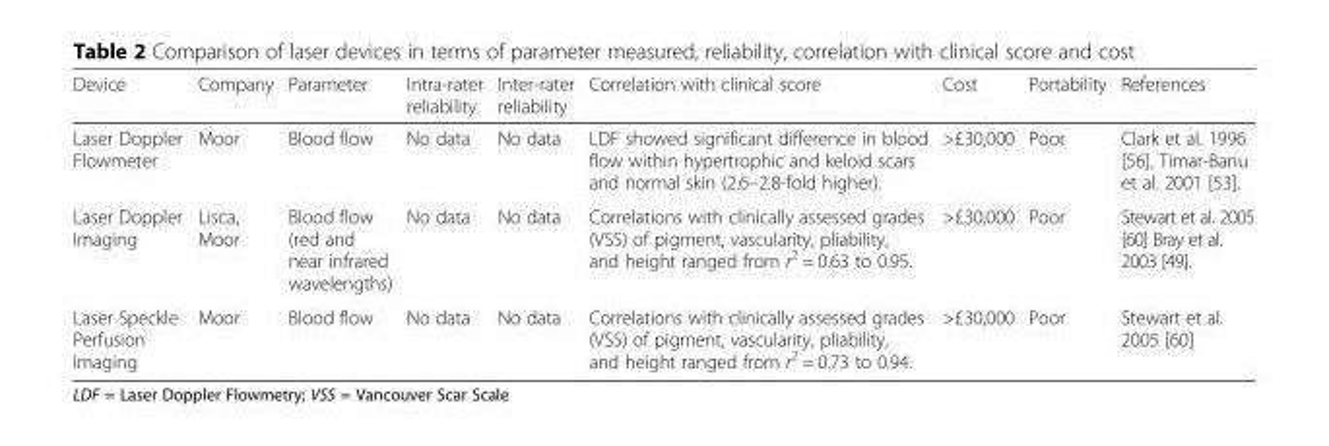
<table><thead><tr><td>Device</td><td>Company</td><td>Parameter</td><td>Intra-rater reliability</td><td>Inter-rater reliability</td><td>Correlation with clinical score</td><td>Cost</td><td>Portability</td><td>References</td></tr></thead><tbody><tr><td>Laser Doppler Flowmeter</td><td>Moor</td><td>Blood flow</td><td>No data</td><td>No data</td><td>LDF showed significant difference in blood flow within hypertrophic and keloid scars and normal skin (2.6–2.8-fold higher).</td><td>&gt;£30,000</td><td>Poor</td><td>Clark et al. 1996 [56], Timar-Banu et al. 2001 [53].</td></tr><tr><td>Laser Doppler Imaging</td><td>Lisca, Moor</td><td>Blood flow (red and near infrared wavelengths)</td><td>No data</td><td>No data</td><td>Correlations with clinically assessed grades (VSS) of pigment, vascularity, pliability, and height ranged from r<sup>2</sup> = 0.63 to 0.95.</td><td>&gt;£30,000</td><td>Poor</td><td>Stewart et al. 2005 [60] Bray et al. 2003 [49].</td></tr><tr><td>Laser Speckle Perfusion Imaging</td><td>Moor</td><td>Blood flow</td><td>No data</td><td>No data</td><td>Correlations with clinically assessed grades (VSS) of pigment, vascularity, pliability, and height ranged from r<sup>2</sup> = 0.73 to 0.94.</td><td>&gt;£30,000</td><td>Poor</td><td>Stewart et al. 2005 [60]</td></tr></tbody></table>